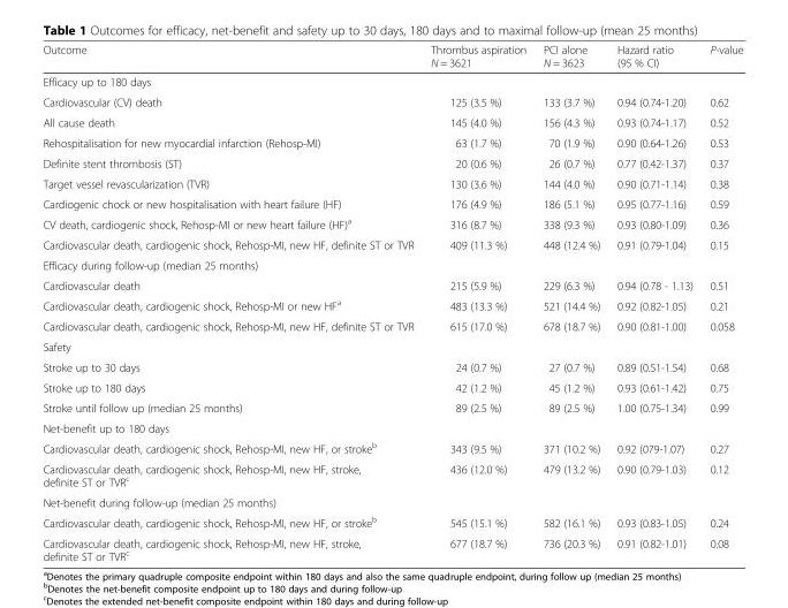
<table><thead><tr><td>Outcome</td><td>Thrombus aspiration N = 3621</td><td>PCI alone N = 3623</td><td>Hazard ratio (95 % CI)</td><td>P-value</td></tr></thead><tbody><tr><td colspan="5">Efficacy up to 180 days</td></tr><tr><td>Cardiovascular (CV) death</td><td>125 (3.5 %)</td><td>133 (3.7 %)</td><td>0.94 (0.74-1.20)</td><td>0.62</td></tr><tr><td>All cause death</td><td>145 (4.0 %)</td><td>156 (4.3 %)</td><td>0.93 (0.74-1.17)</td><td>0.52</td></tr><tr><td>Rehospitalisation for new myocardial infarction (Rehosp-MI)</td><td>63 (1.7 %)</td><td>70 (1.9 %)</td><td>0.90 (0.64-1.26)</td><td>0.53</td></tr><tr><td>Definite stent thrombosis (ST)</td><td>20 (0.6 %)</td><td>26 (0.7 %)</td><td>0.77 (0.42-1.37)</td><td>0.37</td></tr><tr><td>Target vessel revascularization (TVR)</td><td>130 (3.6 %)</td><td>144 (4.0 %)</td><td>0.90 (0.71-1.14)</td><td>0.38</td></tr><tr><td>Cardiogenic chock or new hospitalisation with heart failure (HF)</td><td>176 (4.9 %)</td><td>186 (5.1 %)</td><td>0.95 (0.77-1.16)</td><td>0.59</td></tr><tr><td>CV death, cardiogenic shock, Rehosp-MI or new heart failure (HF)<sup>a</sup></td><td>316 (8.7 %)</td><td>338 (9.3 %)</td><td>0.93 (0.80-1.09)</td><td>0.36</td></tr><tr><td>Cardiovascular death, cardiogenic shock, Rehosp-MI, new HF, definite ST or TVR</td><td>409 (11.3 %)</td><td>448 (12.4 %)</td><td>0.91 (0.79-1.04)</td><td>0.15</td></tr><tr><td colspan="5">Efficacy during follow-up (median 25 months)</td></tr><tr><td>Cardiovascular death</td><td>215 (5.9 %)</td><td>229 (6.3 %)</td><td>0.94 (0.78 - 1.13)</td><td>0.51</td></tr><tr><td>Cardiovascular death, cardiogenic shock, Rehosp-MI or new HF<sup>a</sup></td><td>483 (13.3 %)</td><td>521 (14.4 %)</td><td>0.92 (0.82-1.05)</td><td>0.21</td></tr><tr><td>Cardiovascular death, cardiogenic shock, Rehosp-MI, new HF, definite ST or TVR</td><td>615 (17.0 %)</td><td>678 (18.7 %)</td><td>0.90 (0.81-1.00)</td><td>0.058</td></tr><tr><td colspan="5">Safety</td></tr><tr><td>Stroke up to 30 days</td><td>24 (0.7 %)</td><td>27 (0.7 %)</td><td>0.89 (0.51-1.54)</td><td>0.68</td></tr><tr><td>Stroke up to 180 days</td><td>42 (1.2 %)</td><td>45 (1.2 %)</td><td>0.93 (0.61-1.42)</td><td>0.75</td></tr><tr><td>Stroke until follow up (median 25 months)</td><td>89 (2.5 %)</td><td>89 (2.5 %)</td><td>1.00 (0.75-1.34)</td><td>0.99</td></tr><tr><td colspan="5">Net-benefit up to 180 days</td></tr><tr><td>Cardiovascular death, cardiogenic shock, Rehosp-MI, new HF, or stroke<sup>b</sup></td><td>343 (9.5 %)</td><td>371 (10.2 %)</td><td>0.92 (079-1.07)</td><td>0.27</td></tr><tr><td>Cardiovascular death, cardiogenic shock, Rehosp-MI, new HF, stroke, definite ST or TVR<sup>c</sup></td><td>436 (12.0 %)</td><td>479 (13.2 %)</td><td>0.90 (0.79-1.03)</td><td>0.12</td></tr><tr><td colspan="5">Net-benefit during follow-up (median 25 months)</td></tr><tr><td>Cardiovascular death, cardiogenic shock, Rehosp-MI, new HF, or stroke<sup>b</sup></td><td>545 (15.1 %)</td><td>582 (16.1 %)</td><td>0.93 (0.83-1.05)</td><td>0.24</td></tr><tr><td>Cardiovascular death, cardiogenic shock, Rehosp-MI, new HF, stroke, definite ST or TVR<sup>c</sup></td><td>677 (18.7 %)</td><td>736 (20.3 %)</td><td>0.91 (0.82-1.01)</td><td>0.08</td></tr></tbody></table>